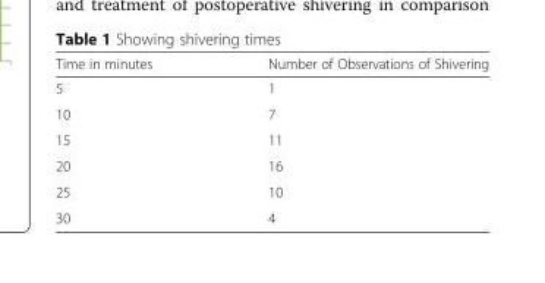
<table><thead><tr><td>Time in minutes</td><td>Number of Observations of Shivering</td></tr></thead><tbody><tr><td>5</td><td>1</td></tr><tr><td>10</td><td>7</td></tr><tr><td>15</td><td>11</td></tr><tr><td>20</td><td>16</td></tr><tr><td>25</td><td>10</td></tr><tr><td>30</td><td>4</td></tr></tbody></table>